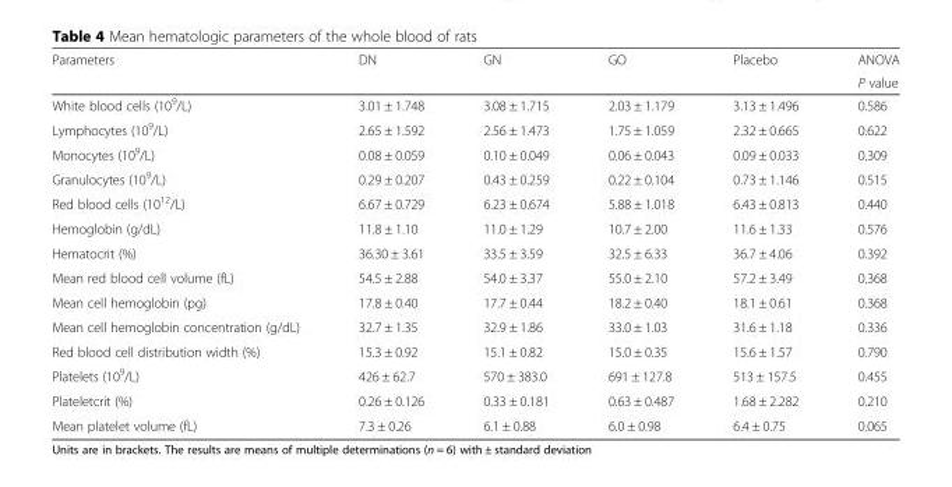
<table><thead><tr><td rowspan="2">Parameters</td><td rowspan="2">DN</td><td rowspan="2">GN</td><td rowspan="2">GO</td><td rowspan="2">Placebo</td><td rowspan="2">ANOVA P value</td></tr><tr></tr></thead><tbody><tr><td>White blood cells (10<sup>9</sup>/L)</td><td>3.01 ± 1.748</td><td>3.08 ± 1.715</td><td>2.03 ± 1.179</td><td>3.13 ± 1.496</td><td>0.586</td></tr><tr><td>Lymphocytes (10<sup>9</sup>/L)</td><td>2.65 ± 1.592</td><td>2.56 ± 1.473</td><td>1.75 ± 1.059</td><td>2.32 ± 0.665</td><td>0.622</td></tr><tr><td>Monocytes (10<sup>9</sup>/L)</td><td>0.08 ± 0.059</td><td>0.10 ± 0.049</td><td>0.06 ± 0.043</td><td>0.09 ± 0.033</td><td>0.309</td></tr><tr><td>Granulocytes (10<sup>9</sup>/L)</td><td>0.29 ± 0.207</td><td>0.43 ± 0.259</td><td>0.22 ± 0.104</td><td>0.73 ± 1.146</td><td>0.515</td></tr><tr><td>Red blood cells (10<sup>12</sup>/L)</td><td>6.67 ± 0.729</td><td>6.23 ± 0.674</td><td>5.88 ± 1.018</td><td>6.43 ± 0.813</td><td>0.440</td></tr><tr><td>Hemoglobin (g/dL)</td><td>11.8 ± 1.10</td><td>11.0 ± 1.29</td><td>10.7 ± 2.00</td><td>11.6 ± 1.33</td><td>0.576</td></tr><tr><td>Hematocrit (%)</td><td>36.30 ± 3.61</td><td>33.5 ± 3.59</td><td>32.5 ± 6.33</td><td>36.7 ± 4.06</td><td>0.392</td></tr><tr><td>Mean red blood cell volume (fL)</td><td>54.5 ± 2.88</td><td>54.0 ± 3.37</td><td>55.0 ± 2.10</td><td>57.2 ± 3.49</td><td>0.368</td></tr><tr><td>Mean cell hemoglobin (pg)</td><td>17.8 ± 0.40</td><td>17.7 ± 0.44</td><td>18.2 ± 0.40</td><td>18.1 ± 0.61</td><td>0.368</td></tr><tr><td>Mean cell hemoglobin concentration (g/dL)</td><td>32.7 ± 1.35</td><td>32.9 ± 1.86</td><td>33.0 ± 1.03</td><td>31.6 ± 1.18</td><td>0.336</td></tr><tr><td>Red blood cell distribution width (%)</td><td>15.3 ± 0.92</td><td>15.1 ± 0.82</td><td>15.0 ± 0.35</td><td>15.6 ± 1.57</td><td>0.790</td></tr><tr><td>Platelets (10<sup>9</sup>/L)</td><td>426 ± 62.7</td><td>570 ± 383.0</td><td>691 ± 127.8</td><td>513 ± 157.5</td><td>0.455</td></tr><tr><td>Plateletcrit (%)</td><td>0.26 ± 0.126</td><td>0.33 ± 0.181</td><td>0.63 ± 0.487</td><td>1.68 ± 2.282</td><td>0.210</td></tr><tr><td>Mean platelet volume (fL)</td><td>7.3 ± 0.26</td><td>6.1 ± 0.88</td><td>6.0 ± 0.98</td><td>6.4 ± 0.75</td><td>0.065</td></tr></tbody></table>